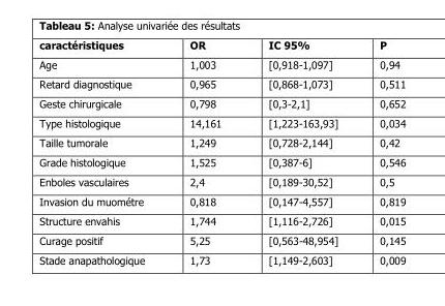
<table><thead><tr><td>caractéristiques</td><td>OR</td><td>IC 95%</td><td>P</td></tr></thead><tbody><tr><td>Age</td><td>1,003</td><td>[0,918-1,097]</td><td>0,94</td></tr><tr><td>Retard diagnostique</td><td>0,965</td><td>[0,868-1,073]</td><td>0,511</td></tr><tr><td>Geste chirurgicale</td><td>0,798</td><td>[0,3-2,1]</td><td>0,652</td></tr><tr><td>Type histologique</td><td>14,161</td><td>[1,223-163,93]</td><td>0,034</td></tr><tr><td>Taille tumorale</td><td>1,249</td><td>[0,728-2,144]</td><td>0,42</td></tr><tr><td>Grade histologique</td><td>1,525</td><td>[0,387-6]</td><td>0,546</td></tr><tr><td>Enboles vasculaires</td><td>2,4</td><td>[0,189-30,52]</td><td>0,5</td></tr><tr><td>Invasion du muométre</td><td>0,818</td><td>[0,147-4,557]</td><td>0,819</td></tr><tr><td>Structure envahis</td><td>1,744</td><td>[1,116-2,726]</td><td>0,015</td></tr><tr><td>Curage positif</td><td>5,25</td><td>[0,563-48,954]</td><td>0,145</td></tr><tr><td>Stade anapathologique</td><td>1,73</td><td>[1,149-2,603]</td><td>0,009</td></tr></tbody></table>